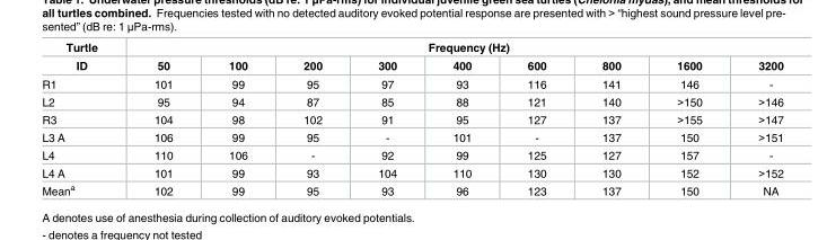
<table><thead><tr><td rowspan="2">Turtle ID</td><td colspan="9">Frequency (Hz)</td></tr><tr><td>50</td><td>100</td><td>200</td><td>300</td><td>400</td><td>600</td><td>800</td><td>1600</td><td>3200</td></tr></thead><tbody><tr><td>R1</td><td>101</td><td>99</td><td>95</td><td>97</td><td>93</td><td>116</td><td>141</td><td>146</td><td>-</td></tr><tr><td>L2</td><td>95</td><td>94</td><td>87</td><td>85</td><td>88</td><td>121</td><td>140</td><td>&gt;150</td><td>&gt;146</td></tr><tr><td>R3</td><td>104</td><td>98</td><td>102</td><td>91</td><td>95</td><td>127</td><td>137</td><td>&gt;155</td><td>&gt;147</td></tr><tr><td>L3 A</td><td>106</td><td>99</td><td>95</td><td>-</td><td>101</td><td>-</td><td>137</td><td>150</td><td>&gt;151</td></tr><tr><td>L4</td><td>110</td><td>106</td><td>-</td><td>92</td><td>99</td><td>125</td><td>127</td><td>157</td><td>-</td></tr><tr><td>L4 A</td><td>101</td><td>99</td><td>93</td><td>104</td><td>110</td><td>130</td><td>130</td><td>152</td><td>&gt;152</td></tr><tr><td>Mean<sup>a</sup></td><td>102</td><td>99</td><td>95</td><td>93</td><td>96</td><td>123</td><td>137</td><td>150</td><td>NA</td></tr></tbody></table>